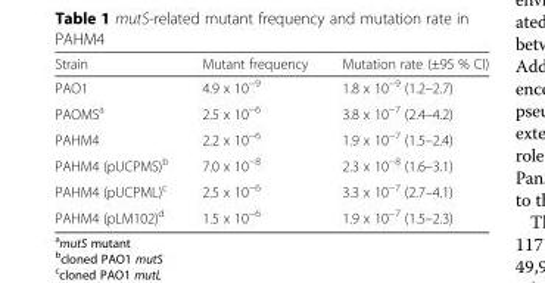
<table><thead><tr><td>Strain</td><td>Mutant frequency</td><td>Mutation rate (±95 % CI)</td></tr></thead><tbody><tr><td>PAO1</td><td>4.9 x 10<sup>−9</sup></td><td>1.8 x 10<sup>−9</sup> (1.2–2.7)</td></tr><tr><td>PAOMS<sup>a</sup></td><td>2.5 x 10<sup>−6</sup></td><td>3.8 x 10<sup>−7</sup> (2.4–4.2)</td></tr><tr><td>PAHM4</td><td>2.2 x 10<sup>−6</sup></td><td>1.9 x 10<sup>−7</sup> (1.5–2.4)</td></tr><tr><td>PAHM4 (pUCPMS)<sup>b</sup></td><td>7.0 x 10<sup>−8</sup></td><td>2.3 x 10<sup>−8</sup> (1.6–3.1)</td></tr><tr><td>PAHM4 (pUCPML)<sup>c</sup></td><td>2.5 x 10<sup>−6</sup></td><td>3.3 x 10<sup>−7</sup> (2.7–4.1)</td></tr><tr><td>PAHM4 (pLM102)<sup>d</sup></td><td>1.5 x 10<sup>−6</sup></td><td>1.9 x 10<sup>−7</sup> (1.5–2.3)</td></tr></tbody></table>